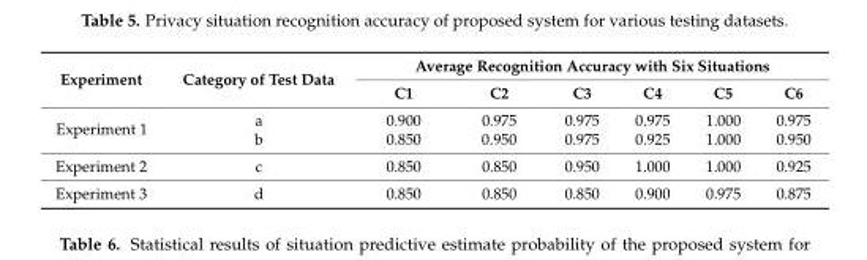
<table><thead><tr><td rowspan="2">Experiment</td><td rowspan="2">Category of Test Data</td><td colspan="6">Average Recognition Accuracy with Six Situations</td></tr><tr><td>C1</td><td>C2</td><td>C3</td><td>C4</td><td>C5</td><td>C6</td></tr></thead><tbody><tr><td rowspan="2">Experiment 1</td><td>a</td><td>0.900</td><td>0.975</td><td>0.975</td><td>0.975</td><td>1.000</td><td>0.975</td></tr><tr><td>b</td><td>0.850</td><td>0.950</td><td>0.975</td><td>0.925</td><td>1.000</td><td>0.950</td></tr><tr><td>Experiment 2</td><td>c</td><td>0.850</td><td>0.850</td><td>0.950</td><td>1.000</td><td>1.000</td><td>0.925</td></tr><tr><td>Experiment 3</td><td>d</td><td>0.850</td><td>0.850</td><td>0.850</td><td>0.900</td><td>0.975</td><td>0.875</td></tr></tbody></table>